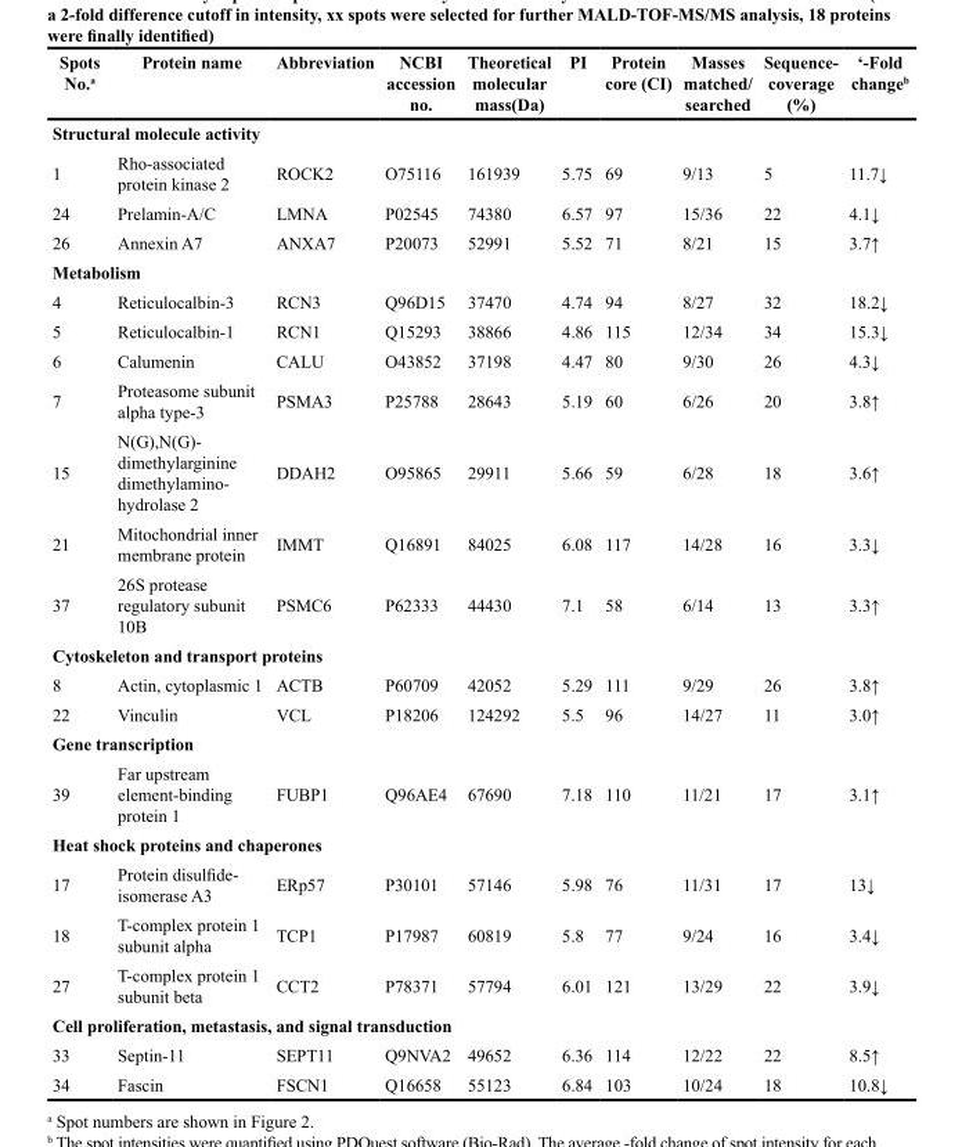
<table><thead><tr><td>Spots No. <sup>a</sup></td><td>Protein name</td><td>Abbreviation</td><td>NCBI accession no.</td><td>Theoretical molecular mass(Da)</td><td>PI</td><td>Protein core (CI)</td><td>Masses matched/ searched</td><td>Sequence- coverage (%)</td><td>‘-Fold change <sup>b</sup></td></tr></thead><tbody><tr><td colspan="10">Structural molecule activity</td></tr><tr><td>1</td><td>Rho-associated protein kinase 2</td><td>ROCK2</td><td>O75116</td><td>161939</td><td>5.75</td><td>69</td><td>9/13</td><td>5</td><td>11.7↓</td></tr><tr><td>24</td><td>Prelamin-A/C</td><td>LMNA</td><td>P02545</td><td>74380</td><td>6.57</td><td>97</td><td>15/36</td><td>22</td><td>4.1↓</td></tr><tr><td>26</td><td>Annexin A7</td><td>ANXA7</td><td>P20073</td><td>52991</td><td>5.52</td><td>71</td><td>8/21</td><td>15</td><td>3.7↑</td></tr><tr><td colspan="10">Metabolism</td></tr><tr><td>4</td><td>Reticulocalbin-3</td><td>RCN3</td><td>Q96D15</td><td>37470</td><td>4.74</td><td>94</td><td>8/27</td><td>32</td><td>18.2↓</td></tr><tr><td>5</td><td>Reticulocalbin-1</td><td>RCN1</td><td>Q15293</td><td>38866</td><td>4.86</td><td>115</td><td>12/34</td><td>34</td><td>15.3↓</td></tr><tr><td>6</td><td>Calumenin</td><td>CALU</td><td>O43852</td><td>37198</td><td>4.47</td><td>80</td><td>9/30</td><td>26</td><td>4.3↓</td></tr><tr><td>7</td><td>Proteasome subunit alpha type-3</td><td>PSMA3</td><td>P25788</td><td>28643</td><td>5.19</td><td>60</td><td>6/26</td><td>20</td><td>3.8↑</td></tr><tr><td>15</td><td>N(G),N(G)- dimethylarginine dimethylamino- hydrolase 2</td><td>DDAH2</td><td>O95865</td><td>29911</td><td>5.66</td><td>59</td><td>6/28</td><td>18</td><td>3.6↑</td></tr><tr><td>21</td><td>Mitochondrial inner membrane protein</td><td>IMMT</td><td>Q16891</td><td>84025</td><td>6.08</td><td>117</td><td>14/28</td><td>16</td><td>3.3↓</td></tr><tr><td>37</td><td>26S protease regulatory subunit 10B</td><td>PSMC6</td><td>P62333</td><td>44430</td><td>7.1</td><td>58</td><td>6/14</td><td>13</td><td>3.3↑</td></tr><tr><td colspan="10">Cytoskeleton and transport proteins</td></tr><tr><td>8</td><td>Actin, cytoplasmic 1</td><td>ACTB</td><td>P60709</td><td>42052</td><td>5.29</td><td>111</td><td>9/29</td><td>26</td><td>3.8↑</td></tr><tr><td>22</td><td>Vinculin</td><td>VCL</td><td>P18206</td><td>124292</td><td>5.5</td><td>96</td><td>14/27</td><td>11</td><td>3.0↑</td></tr><tr><td colspan="10">Gene transcription</td></tr><tr><td>39</td><td>Far upstream element-binding protein 1</td><td>FUBP1</td><td>Q96AE4</td><td>67690</td><td>7.18</td><td>110</td><td>11/21</td><td>17</td><td>3.1↑</td></tr><tr><td colspan="10">Heat shock proteins and chaperones</td></tr><tr><td>17</td><td>Protein disulfi de- isomerase A3</td><td>ERp57</td><td>P30101</td><td>57146</td><td>5.98</td><td>76</td><td>11/31</td><td>17</td><td>13↓</td></tr><tr><td>18</td><td>T-complex protein 1 subunit alpha</td><td>TCP1</td><td>P17987</td><td>60819</td><td>5.8</td><td>77</td><td>9/24</td><td>16</td><td>3.4↓</td></tr><tr><td>27</td><td>T-complex protein 1 subunit beta</td><td>CCT2</td><td>P78371</td><td>57794</td><td>6.01</td><td>121</td><td>13/29</td><td>22</td><td>3.9↓</td></tr><tr><td colspan="10">Cell proliferation, metastasis, and signal transduction</td></tr><tr><td>33</td><td>Septin-11</td><td>SEPT11</td><td>Q9NVA2</td><td>49652</td><td>6.36</td><td>114</td><td>12/22</td><td>22</td><td>8.5↑</td></tr><tr><td>34</td><td>Fascin</td><td>FSCN1</td><td>Q16658</td><td>55123</td><td>6.84</td><td>103</td><td>10/24</td><td>18</td><td>10.8↓</td></tr></tbody></table>